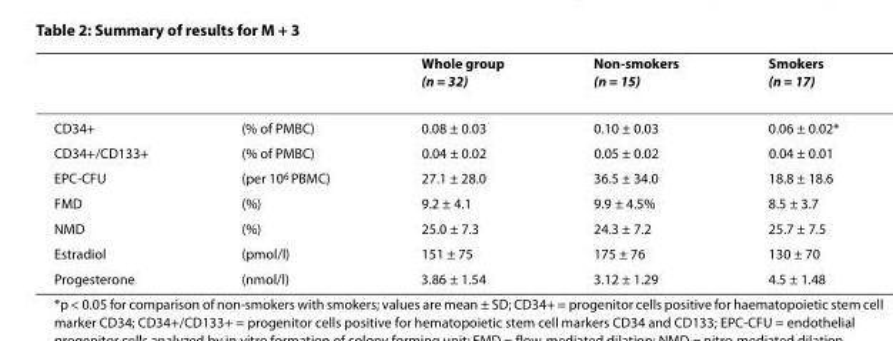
<table><thead><tr><td></td><td></td><td>Whole group (n = 32)</td><td>Non-smokers (n = 15)</td><td>Smokers (n = 17)</td></tr></thead><tbody><tr><td>CD34+</td><td>(% of PMBC)</td><td>0.08 ± 0.03</td><td>0.10 ± 0.03</td><td>0.06 ± 0.02*</td></tr><tr><td>CD34+/CD133+</td><td>(% of PMBC)</td><td>0.04 ± 0.02</td><td>0.05 ± 0.02</td><td>0.04 ± 0.01</td></tr><tr><td>EPC-CFU</td><td>(per 10<sup>6</sup> PBMC)</td><td>27.1 ± 28.0</td><td>36.5 ± 34.0</td><td>18.8 ± 18.6</td></tr><tr><td>FMD</td><td>(%)</td><td>9.2 ± 4.1</td><td>9.9 ± 4.5%</td><td>8.5 ± 3.7</td></tr><tr><td>NMD</td><td>(%)</td><td>25.0 ± 7.3</td><td>24.3 ± 7.2</td><td>25.7 ± 7.5</td></tr><tr><td>Estradiol</td><td>(pmol/l)</td><td>151 ± 75</td><td>175 ± 76</td><td>130 ± 70</td></tr><tr><td>Progesterone</td><td>(nmol/l)</td><td>3.86 ± 1.54</td><td>3.12 ± 1.29</td><td>4.5 ± 1.48</td></tr></tbody></table>